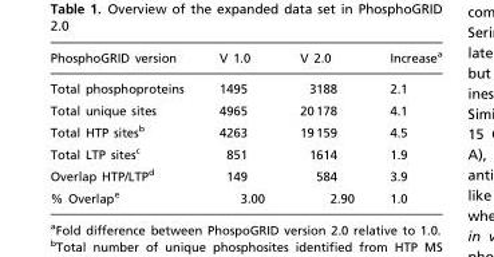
<table><thead><tr><td>PhosphoGRID version</td><td>V 1.0</td><td>V 2.0</td><td>Increase<sup>a</sup></td></tr></thead><tbody><tr><td>Total phosphoproteins</td><td>1495</td><td>3188</td><td>2.1</td></tr><tr><td>Total unique sites</td><td>4965</td><td>20 178</td><td>4.1</td></tr><tr><td>Total HTP sites<sup>b</sup></td><td>4263</td><td>19 159</td><td>4.5</td></tr><tr><td>Total LTP sites<sup>c</sup></td><td>851</td><td>1614</td><td>1.9</td></tr><tr><td>Overlap HTP/LTP<sup>d</sup></td><td>149</td><td>584</td><td>3.9</td></tr><tr><td>% Overlap<sup>e</sup></td><td>3.00</td><td>2.90</td><td>1.0</td></tr></tbody></table>